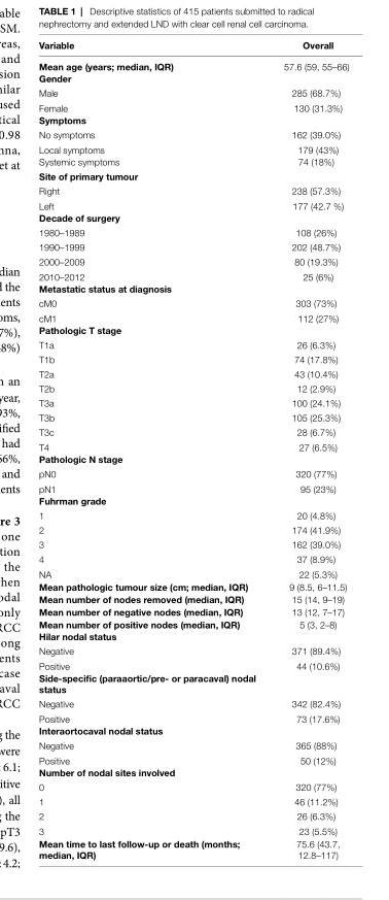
<table><thead><tr><td>Variable</td><td>Overall</td></tr></thead><tbody><tr><td>Mean age (years; median, iQr)</td><td>57.6 (59, 55–66)</td></tr><tr><td colspan="2">gender</td></tr><tr><td>Male</td><td>285 (68.7%)</td></tr><tr><td>Female</td><td>130 (31.3%)</td></tr><tr><td colspan="2">symptoms</td></tr><tr><td>No symptoms</td><td>162 (39.0%)</td></tr><tr><td>Local symptoms</td><td>179 (43%)</td></tr><tr><td>Systemic symptoms</td><td>74 (18%)</td></tr><tr><td colspan="2">site of primary tumour</td></tr><tr><td>Right</td><td>238 (57.3%)</td></tr><tr><td>Left</td><td>177 (42.7 %)</td></tr><tr><td colspan="2">Decade of surgery</td></tr><tr><td>1980–1989</td><td>108 (26%)</td></tr><tr><td>1990–1999</td><td>202 (48.7%)</td></tr><tr><td>2000–2009</td><td>80 (19.3%)</td></tr><tr><td>2010–2012</td><td>25 (6%)</td></tr><tr><td colspan="2">Metastatic status at diagnosis</td></tr><tr><td>cM0</td><td>303 (73%)</td></tr><tr><td>cM1</td><td>112 (27%)</td></tr><tr><td colspan="2">Pathologic T stage</td></tr><tr><td>T1a</td><td>26 (6.3%)</td></tr><tr><td>T1b</td><td>74 (17.8%)</td></tr><tr><td>T2a</td><td>43 (10.4%)</td></tr><tr><td>T2b</td><td>12 (2.9%)</td></tr><tr><td>T3a</td><td>100 (24.1%)</td></tr><tr><td>T3b</td><td>105 (25.3%)</td></tr><tr><td>T3c</td><td>28 (6.7%)</td></tr><tr><td>T4</td><td>27 (6.5%)</td></tr><tr><td colspan="2">Pathologic n stage</td></tr><tr><td>pN0</td><td>320 (77%)</td></tr><tr><td>pN1</td><td>95 (23%)</td></tr><tr><td colspan="2">Fuhrman grade</td></tr><tr><td>1</td><td>20 (4.8%)</td></tr><tr><td>2</td><td>174 (41.9%)</td></tr><tr><td>3</td><td>162 (39.0%)</td></tr><tr><td>4</td><td>37 (8.9%)</td></tr><tr><td>NA</td><td>22 (5.3%)</td></tr><tr><td>Mean pathologic tumour size (cm; median, iQr)</td><td>9 (8.5, 6–11.5)</td></tr><tr><td>Mean number of nodes removed (median, iQr)</td><td>15 (14, 9–19)</td></tr><tr><td>Mean number of negative nodes (median, iQr)</td><td>13 (12, 7–17)</td></tr><tr><td>Mean number of positive nodes (median, iQr)</td><td>5 (3, 2–8)</td></tr><tr><td colspan="2">hilar nodal status</td></tr><tr><td>Negative</td><td>371 (89.4%)</td></tr><tr><td>Positive</td><td>44 (10.6%)</td></tr><tr><td colspan="2">side-specific (paraaortic/pre- or paracaval) nodal status</td></tr><tr><td>Negative</td><td>342 (82.4%)</td></tr><tr><td>Positive</td><td>73 (17.6%)</td></tr><tr><td colspan="2">interaortocaval nodal status</td></tr><tr><td>Negative</td><td>365 (88%)</td></tr><tr><td>Positive</td><td>50 (12%)</td></tr><tr><td colspan="2">number of nodal sites involved</td></tr><tr><td>0</td><td>320 (77%)</td></tr><tr><td>1</td><td>46 (11.2%)</td></tr><tr><td>2</td><td>26 (6.3%)</td></tr><tr><td>3</td><td>23 (5.5%)</td></tr><tr><td>Mean time to last follow-up or death (months; median, iQr)</td><td>75.6 (43.7, 12.8–117)</td></tr></tbody></table>